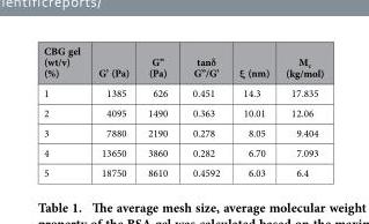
<table><thead><tr><td>CBG gel (wt/v) (%)</td><td>G’ (Pa)</td><td>G” (Pa)</td><td>tanδ G”/G’</td><td>ξ (nm)</td><td>M<sub>c</sub> (kg/mol)</td></tr></thead><tbody><tr><td>1</td><td>1385</td><td>626</td><td>0.451</td><td>14.3</td><td>17.835</td></tr><tr><td>2</td><td>4095</td><td>1490</td><td>0.363</td><td>10.01</td><td>12.06</td></tr><tr><td>3</td><td>7880</td><td>2190</td><td>0.278</td><td>8.05</td><td>9.404</td></tr><tr><td>4</td><td>13650</td><td>3860</td><td>0.282</td><td>6.70</td><td>7.093</td></tr><tr><td>5</td><td>18750</td><td>8610</td><td>0.4592</td><td>6.03</td><td>6.4</td></tr></tbody></table>